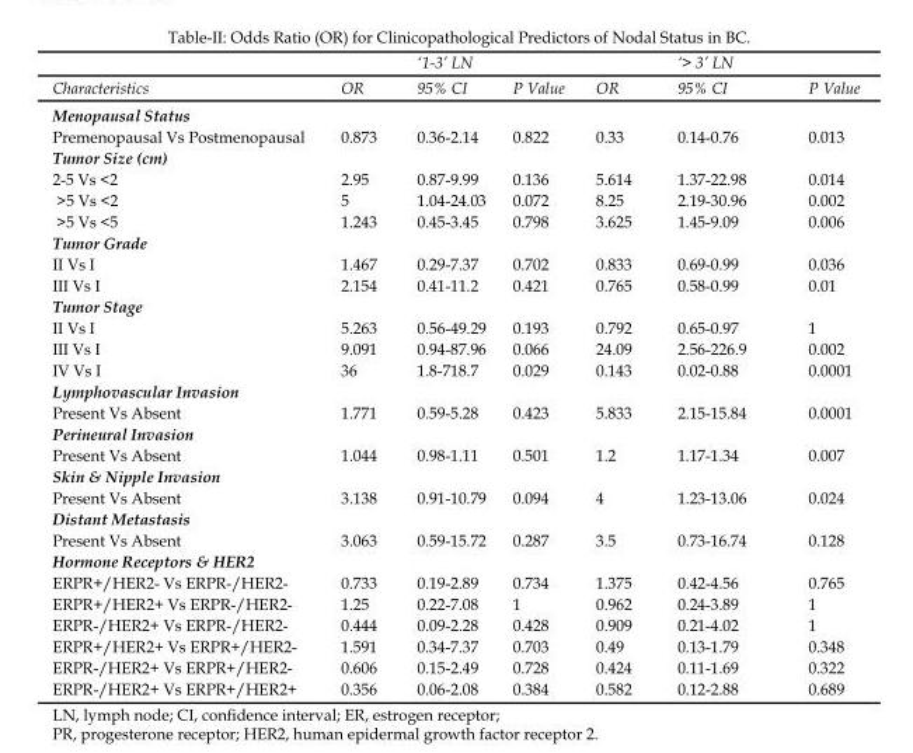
<table><thead><tr><td rowspan="2">Characteristics</td><td rowspan="2">OR</td><td rowspan="2">‘1-3’ LN 95% CI</td><td rowspan="2">P Value</td><td rowspan="2">OR</td><td rowspan="2">‘&gt; 3’ LN 95% CI</td><td rowspan="2">P Value</td></tr><tr></tr></thead><tbody><tr><td colspan="7">Menopausal Status</td></tr><tr><td>Premenopausal Vs Postmenopausal</td><td>0.873</td><td>0.36-2.14</td><td>0.822</td><td>0.33</td><td>0.14-0.76</td><td>0.013</td></tr><tr><td colspan="7">Tumor Size (cm)</td></tr><tr><td>2-5 Vs &lt;2</td><td>2.95</td><td>0.87-9.99</td><td>0.136</td><td>5.614</td><td>1.37-22.98</td><td>0.014</td></tr><tr><td>&gt;5 Vs &lt;2</td><td>5</td><td>1.04-24.03</td><td>0.072</td><td>8.25</td><td>2.19-30.96</td><td>0.002</td></tr><tr><td>&gt;5 Vs &lt;5</td><td>1.243</td><td>0.45-3.45</td><td>0.798</td><td>3.625</td><td>1.45-9.09</td><td>0.006</td></tr><tr><td colspan="7">Tumor Grade</td></tr><tr><td>II Vs I</td><td>1.467</td><td>0.29-7.37</td><td>0.702</td><td>0.833</td><td>0.69-0.99</td><td>0.036</td></tr><tr><td>III Vs I</td><td>2.154</td><td>0.41-11.2</td><td>0.421</td><td>0.765</td><td>0.58-0.99</td><td>0.01</td></tr><tr><td colspan="7">Tumor Stage</td></tr><tr><td>II Vs I</td><td>5.263</td><td>0.56-49.29</td><td>0.193</td><td>0.792</td><td>0.65-0.97</td><td>1</td></tr><tr><td>III Vs I</td><td>9.091</td><td>0.94-87.96</td><td>0.066</td><td>24.09</td><td>2.56-226.9</td><td>0.002</td></tr><tr><td>IV Vs I</td><td>36</td><td>1.8-718.7</td><td>0.029</td><td>0.143</td><td>0.02-0.88</td><td>0.0001</td></tr><tr><td colspan="7">Lymphovascular Invasion</td></tr><tr><td>Present Vs Absent</td><td>1.771</td><td>0.59-5.28</td><td>0.423</td><td>5.833</td><td>2.15-15.84</td><td>0.0001</td></tr><tr><td colspan="7">Perineural Invasion</td></tr><tr><td>Present Vs Absent</td><td>1.044</td><td>0.98-1.11</td><td>0.501</td><td>1.2</td><td>1.17-1.34</td><td>0.007</td></tr><tr><td colspan="7">Skin &amp; Nipple Invasion</td></tr><tr><td>Present Vs Absent</td><td>3.138</td><td>0.91-10.79</td><td>0.094</td><td>4</td><td>1.23-13.06</td><td>0.024</td></tr><tr><td colspan="7">Distant Metastasis</td></tr><tr><td>Present Vs Absent</td><td>3.063</td><td>0.59-15.72</td><td>0.287</td><td>3.5</td><td>0.73-16.74</td><td>0.128</td></tr><tr><td colspan="7">Hormone Receptors &amp; HER2</td></tr><tr><td>ERPR+/HER2- Vs ERPR-/HER2-</td><td>0.733</td><td>0.19-2.89</td><td>0.734</td><td>1.375</td><td>0.42-4.56</td><td>0.765</td></tr><tr><td>ERPR+/HER2+ Vs ERPR-/HER2-</td><td>1.25</td><td>0.22-7.08</td><td>1</td><td>0.962</td><td>0.24-3.89</td><td>1</td></tr><tr><td>ERPR-/HER2+ Vs ERPR-/HER2-</td><td>0.444</td><td>0.09-2.28</td><td>0.428</td><td>0.909</td><td>0.21-4.02</td><td>1</td></tr><tr><td>ERPR+/HER2+ Vs ERPR+/HER2-</td><td>1.591</td><td>0.34-7.37</td><td>0.703</td><td>0.49</td><td>0.13-1.79</td><td>0.348</td></tr><tr><td>ERPR-/HER2+ Vs ERPR+/HER2-</td><td>0.606</td><td>0.15-2.49</td><td>0.728</td><td>0.424</td><td>0.11-1.69</td><td>0.322</td></tr><tr><td>ERPR-/HER2+ Vs ERPR+/HER2+</td><td>0.356</td><td>0.06-2.08</td><td>0.384</td><td>0.582</td><td>0.12-2.88</td><td>0.689</td></tr></tbody></table>